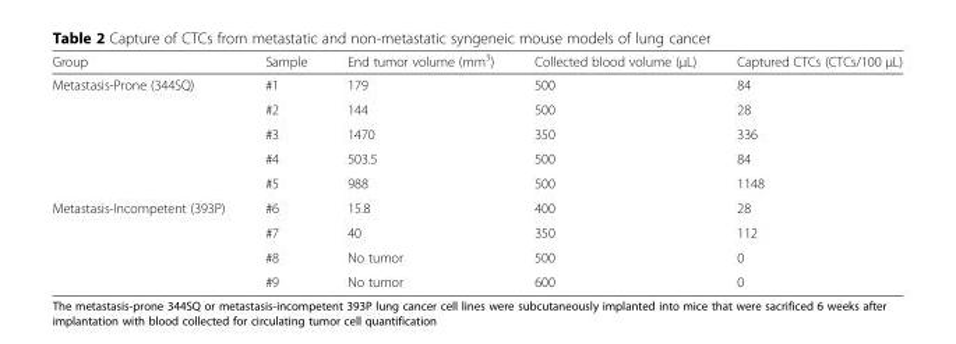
<table><thead><tr><td>Group</td><td>Sample</td><td>End tumor volume (mm<sup>3</sup>)</td><td>Collected blood volume (μL)</td><td>Captured CTCs (CTCs/100 μL)</td></tr></thead><tbody><tr><td rowspan="5">Metastasis-Prone (344SQ)</td><td>#1</td><td>179</td><td>500</td><td>84</td></tr><tr><td>#2</td><td>144</td><td>500</td><td>28</td></tr><tr><td>#3</td><td>1470</td><td>350</td><td>336</td></tr><tr><td>#4</td><td>503.5</td><td>500</td><td>84</td></tr><tr><td>#5</td><td>988</td><td>500</td><td>1148</td></tr><tr><td rowspan="4">Metastasis-Incompetent (393P)</td><td>#6</td><td>15.8</td><td>400</td><td>28</td></tr><tr><td>#7</td><td>40</td><td>350</td><td>112</td></tr><tr><td>#8</td><td>No tumor</td><td>500</td><td>0</td></tr><tr><td>#9</td><td>No tumor</td><td>600</td><td>0</td></tr></tbody></table>